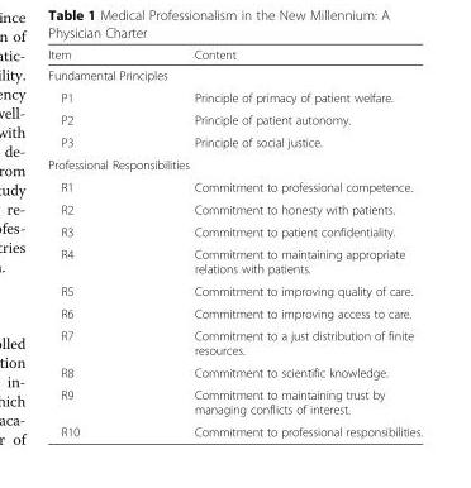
<table><thead><tr><td>Item</td><td>Content</td></tr></thead><tbody><tr><td colspan="2">Fundamental Principles</td></tr><tr><td>P1</td><td>Principle of primacy of patient welfare.</td></tr><tr><td>P2</td><td>Principle of patient autonomy.</td></tr><tr><td>P3</td><td>Principle of social justice.</td></tr><tr><td colspan="2">Professional Responsibilities</td></tr><tr><td>R1</td><td>Commitment to professional competence.</td></tr><tr><td>R2</td><td>Commitment to honesty with patients.</td></tr><tr><td>R3</td><td>Commitment to patient confidentiality.</td></tr><tr><td>R4</td><td>Commitment to maintaining appropriate relations with patients.</td></tr><tr><td>R5</td><td>Commitment to improving quality of care.</td></tr><tr><td>R6</td><td>Commitment to improving access to care.</td></tr><tr><td>R7</td><td>Commitment to a just distribution of finite resources.</td></tr><tr><td>R8</td><td>Commitment to scientific knowledge.</td></tr><tr><td>R9</td><td>Commitment to maintaining trust by managing conflicts of interest.</td></tr><tr><td>R10</td><td>Commitment to professional responsibilities.</td></tr></tbody></table>